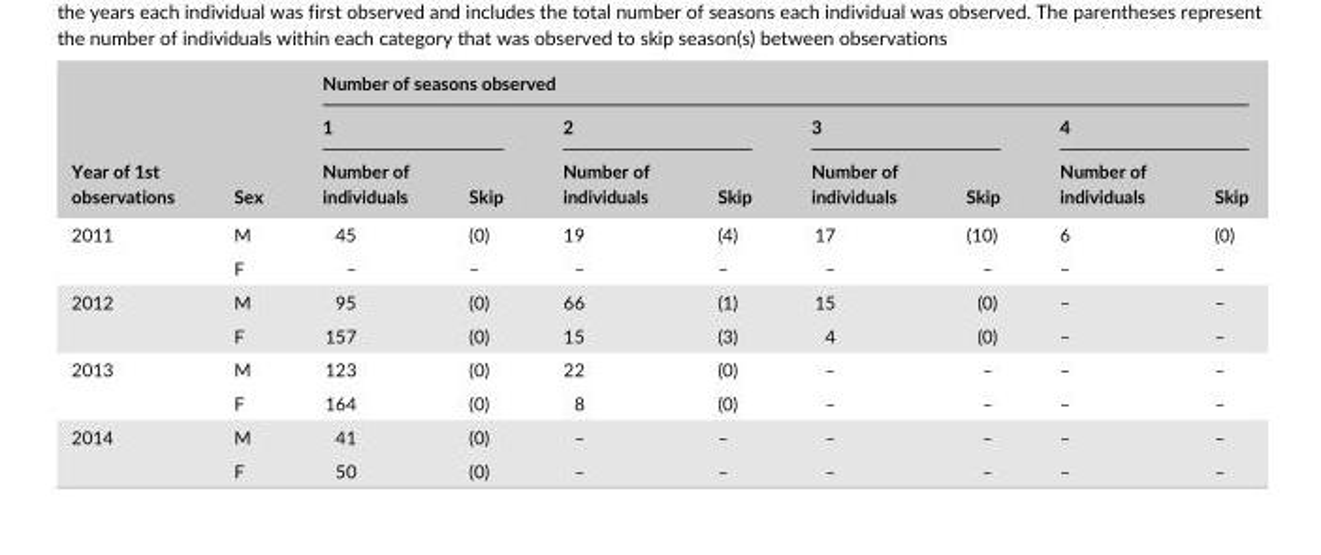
<table><thead><tr><td rowspan="3">Year of 1st observations</td><td rowspan="3">Sex</td><td colspan="8">Number of seasons observed</td></tr><tr><td colspan="2">1</td><td colspan="2">2</td><td colspan="2">3</td><td colspan="2">4</td></tr><tr><td>Number of individuals</td><td>Skip</td><td>Number of individuals</td><td>Skip</td><td>Number of individuals</td><td>Skip</td><td>Number of individuals</td><td>Skip</td></tr></thead><tbody><tr><td rowspan="2">2011</td><td>M</td><td>45</td><td>(0)</td><td>19</td><td>(4)</td><td>17</td><td>(10)</td><td>6</td><td>(0)</td></tr><tr><td>F</td><td>–</td><td>–</td><td>–</td><td>–</td><td>–</td><td>–</td><td>–</td><td>–</td></tr><tr><td rowspan="2">2012</td><td>M</td><td>95</td><td>(0)</td><td>66</td><td>(1)</td><td>15</td><td>(0)</td><td>–</td><td>–</td></tr><tr><td>F</td><td>157</td><td>(0)</td><td>15</td><td>(3)</td><td>4</td><td>(0)</td><td>–</td><td>–</td></tr><tr><td rowspan="2">2013</td><td>M</td><td>123</td><td>(0)</td><td>22</td><td>(0)</td><td>–</td><td>–</td><td>–</td><td>–</td></tr><tr><td>F</td><td>164</td><td>(0)</td><td>8</td><td>(0)</td><td>–</td><td>–</td><td>–</td><td>–</td></tr><tr><td rowspan="2">2014</td><td>M</td><td>41</td><td>(0)</td><td>–</td><td>–</td><td>–</td><td>–</td><td>–</td><td>–</td></tr><tr><td>F</td><td>50</td><td>(0)</td><td>–</td><td>–</td><td>–</td><td>–</td><td>–</td><td>–</td></tr></tbody></table>